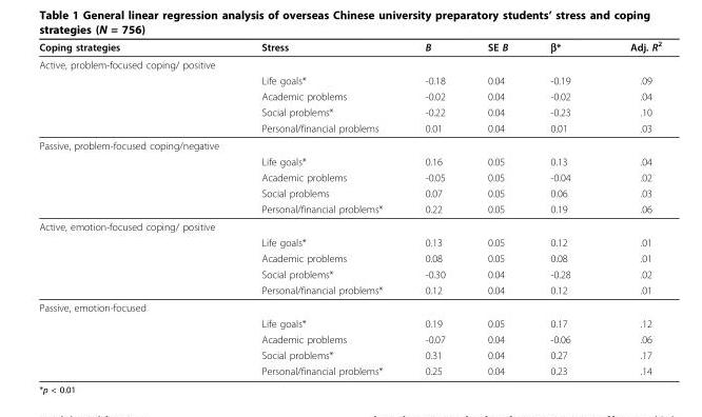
<table><thead><tr><td>Coping strategies</td><td>Stress</td><td>B</td><td>SE B</td><td>β*</td><td>Adj. R<sup>2</sup></td></tr></thead><tbody><tr><td colspan="6">Active, problem-focused coping/ positive</td></tr><tr><td></td><td>Life goals*</td><td>-0.18</td><td>0.04</td><td>-0.19</td><td>.09</td></tr><tr><td></td><td>Academic problems</td><td>-0.02</td><td>0.04</td><td>-0.02</td><td>.04</td></tr><tr><td></td><td>Social problems*</td><td>-0.22</td><td>0.04</td><td>-0.23</td><td>.10</td></tr><tr><td></td><td>Personal/financial problems</td><td>0.01</td><td>0.04</td><td>0.01</td><td>.03</td></tr><tr><td colspan="6">Passive, problem-focused coping/negative</td></tr><tr><td></td><td>Life goals*</td><td>0.16</td><td>0.05</td><td>0.13</td><td>.04</td></tr><tr><td></td><td>Academic problems</td><td>-0.05</td><td>0.05</td><td>-0.04</td><td>.02</td></tr><tr><td></td><td>Social problems</td><td>0.07</td><td>0.05</td><td>0.06</td><td>.03</td></tr><tr><td></td><td>Personal/financial problems*</td><td>0.22</td><td>0.05</td><td>0.19</td><td>.06</td></tr><tr><td colspan="6">Active, emotion-focused coping/ positive</td></tr><tr><td></td><td>Life goals*</td><td>0.13</td><td>0.05</td><td>0.12</td><td>.01</td></tr><tr><td></td><td>Academic problems</td><td>0.08</td><td>0.05</td><td>0.08</td><td>.01</td></tr><tr><td></td><td>Social problems*</td><td>-0.30</td><td>0.04</td><td>-0.28</td><td>.02</td></tr><tr><td></td><td>Personal/financial problems*</td><td>0.12</td><td>0.04</td><td>0.12</td><td>.01</td></tr><tr><td colspan="6">Passive, emotion-focused</td></tr><tr><td></td><td>Life goals*</td><td>0.19</td><td>0.05</td><td>0.17</td><td>.12</td></tr><tr><td></td><td>Academic problems</td><td>-0.07</td><td>0.04</td><td>-0.06</td><td>.06</td></tr><tr><td></td><td>Social problems*</td><td>0.31</td><td>0.04</td><td>0.27</td><td>.17</td></tr><tr><td></td><td>Personal/financial problems*</td><td>0.25</td><td>0.04</td><td>0.23</td><td>.14</td></tr></tbody></table>